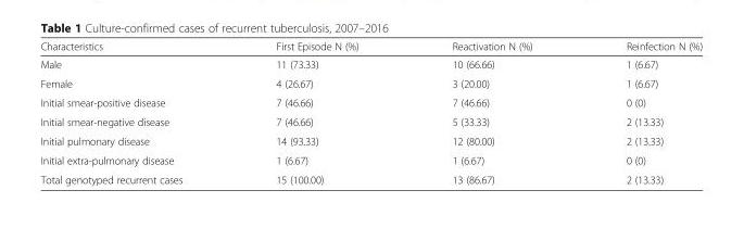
<table><thead><tr><td>Characteristics</td><td>First Episode N (%)</td><td>Reactivation N (%)</td><td>Reinfection N (%)</td></tr></thead><tbody><tr><td>Male</td><td>11 (73.33)</td><td>10 (66.66)</td><td>1 (6.67)</td></tr><tr><td>Female</td><td>4 (26.67)</td><td>3 (20.00)</td><td>1 (6.67)</td></tr><tr><td>Initial smear-positive disease</td><td>7 (46.66)</td><td>7 (46.66)</td><td>0 (0)</td></tr><tr><td>Initial smear-negative disease</td><td>7 (46.66)</td><td>5 (33.33)</td><td>2 (13.33)</td></tr><tr><td>Initial pulmonary disease</td><td>14 (93.33)</td><td>12 (80.00)</td><td>2 (13.33)</td></tr><tr><td>Initial extra-pulmonary disease</td><td>1 (6.67)</td><td>1 (6.67)</td><td>0 (0)</td></tr><tr><td>Total genotyped recurrent cases</td><td>15 (100.00)</td><td>13 (86.67)</td><td>2 (13.33)</td></tr></tbody></table>